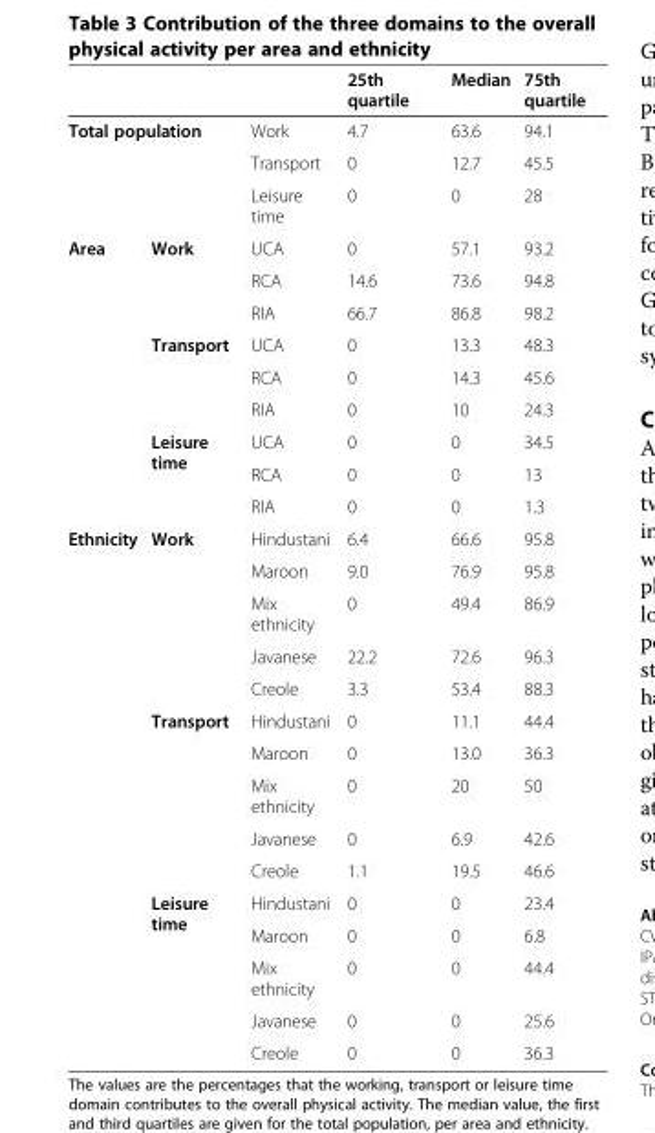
<table><thead><tr><td></td><td></td><td></td><td>25th quartile</td><td>Median</td><td>75th quartile</td></tr></thead><tbody><tr><td rowspan="3" colspan="2">Total population</td><td>Work</td><td>4.7</td><td>63.6</td><td>94.1</td></tr><tr><td>Transport</td><td>0</td><td>12.7</td><td>45.5</td></tr><tr><td>Leisure time</td><td>0</td><td>0</td><td>28</td></tr><tr><td rowspan="9">Area</td><td rowspan="3">Work</td><td>UCA</td><td>0</td><td>57.1</td><td>93.2</td></tr><tr><td>RCA</td><td>14.6</td><td>73.6</td><td>94.8</td></tr><tr><td>RIA</td><td>66.7</td><td>86.8</td><td>98.2</td></tr><tr><td rowspan="3">Transport</td><td>UCA</td><td>0</td><td>13.3</td><td>48.3</td></tr><tr><td>RCA</td><td>0</td><td>14.3</td><td>45.6</td></tr><tr><td>RIA</td><td>0</td><td>10</td><td>24.3</td></tr><tr><td rowspan="3">Leisure time</td><td>UCA</td><td>0</td><td>0</td><td>34.5</td></tr><tr><td>RCA</td><td>0</td><td>0</td><td>13</td></tr><tr><td>RIA</td><td>0</td><td>0</td><td>1.3</td></tr><tr><td rowspan="15">Ethnicity</td><td rowspan="5">Work</td><td>Hindustani</td><td>6.4</td><td>66.6</td><td>95.8</td></tr><tr><td>Maroon</td><td>9.0</td><td>76.9</td><td>95.8</td></tr><tr><td>Mix ethnicity</td><td>0</td><td>49.4</td><td>86.9</td></tr><tr><td>Javanese</td><td>22.2</td><td>72.6</td><td>96.3</td></tr><tr><td>Creole</td><td>3.3</td><td>53.4</td><td>88.3</td></tr><tr><td rowspan="5">Transport</td><td>Hindustani</td><td>0</td><td>11.1</td><td>44.4</td></tr><tr><td>Maroon</td><td>0</td><td>13.0</td><td>36.3</td></tr><tr><td>Mix ethnicity</td><td>0</td><td>20</td><td>50</td></tr><tr><td>Javanese</td><td>0</td><td>6.9</td><td>42.6</td></tr><tr><td>Creole</td><td>1.1</td><td>19.5</td><td>46.6</td></tr><tr><td rowspan="5">Leisure time</td><td>Hindustani</td><td>0</td><td>0</td><td>23.4</td></tr><tr><td>Maroon</td><td>0</td><td>0</td><td>6.8</td></tr><tr><td>Mix ethnicity</td><td>0</td><td>0</td><td>44.4</td></tr><tr><td>Javanese</td><td>0</td><td>0</td><td>25.6</td></tr><tr><td>Creole</td><td>0</td><td>0</td><td>36.3</td></tr></tbody></table>